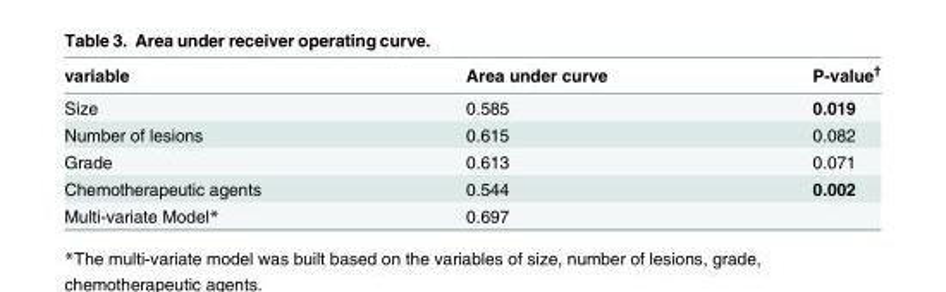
<table><thead><tr><td>variable</td><td>Area under curve</td><td>P-value<sup>†</sup></td></tr></thead><tbody><tr><td>Size</td><td>0.585</td><td>0.019</td></tr><tr><td>Number of lesions</td><td>0.615</td><td>0.082</td></tr><tr><td>Grade</td><td>0.613</td><td>0.071</td></tr><tr><td>Chemotherapeutic agents</td><td>0.544</td><td>0.002</td></tr><tr><td>Multi-variate Model*</td><td>0.697</td><td></td></tr></tbody></table>